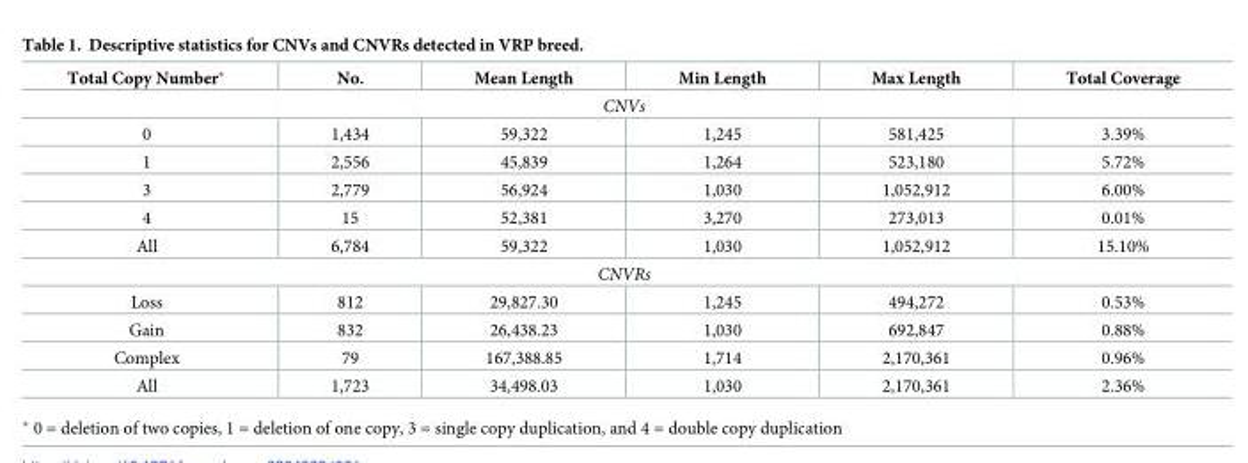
<table><thead><tr><td>Total Copy Number*</td><td>No.</td><td>Mean Length</td><td>Min Length</td><td>Max Length</td><td>Total Coverage</td></tr></thead><tbody><tr><td colspan="6">CNVs</td></tr><tr><td>0</td><td>1,434</td><td>59,322</td><td>1,245</td><td>581,425</td><td>3.39%</td></tr><tr><td>1</td><td>2,556</td><td>45,839</td><td>1,264</td><td>523,180</td><td>5.72%</td></tr><tr><td>3</td><td>2,779</td><td>56,924</td><td>1,030</td><td>1,052,912</td><td>6.00%</td></tr><tr><td>4</td><td>15</td><td>52,381</td><td>3,270</td><td>273,013</td><td>0.01%</td></tr><tr><td>All</td><td>6,784</td><td>59,322</td><td>1,030</td><td>1,052,912</td><td>15.10%</td></tr><tr><td colspan="6">CNVRs</td></tr><tr><td>Loss</td><td>812</td><td>29,827.30</td><td>1,245</td><td>494,272</td><td>0.53%</td></tr><tr><td>Gain</td><td>832</td><td>26,438.23</td><td>1,030</td><td>692,847</td><td>0.88%</td></tr><tr><td>Complex</td><td>79</td><td>167,388.85</td><td>1,714</td><td>2,170,361</td><td>0.96%</td></tr><tr><td>All</td><td>1,723</td><td>34,498.03</td><td>1,030</td><td>2,170,361</td><td>2.36%</td></tr></tbody></table>